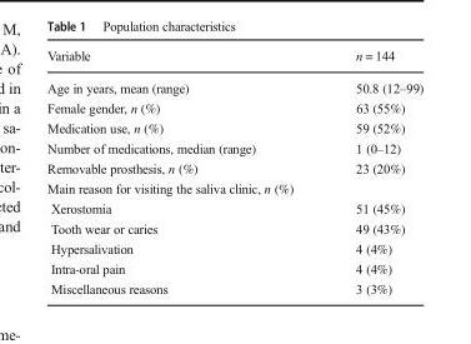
<table><thead><tr><td>Variable</td><td>n = 144</td></tr></thead><tbody><tr><td>Age in years, mean (range)</td><td>50.8 (12–99)</td></tr><tr><td>Female gender, n (%)</td><td>63 (55%)</td></tr><tr><td>Medication use, n (%)</td><td>59 (52%)</td></tr><tr><td>Number of medications, median (range)</td><td>1 (0–12)</td></tr><tr><td>Removable prosthesis, n (%)</td><td>23 (20%)</td></tr><tr><td colspan="2">Main reason for visiting the saliva clinic, n (%)</td></tr><tr><td>Xerostomia</td><td>51 (45%)</td></tr><tr><td>Tooth wear or caries</td><td>49 (43%)</td></tr><tr><td>Hypersalivation</td><td>4 (4%)</td></tr><tr><td>Intra-oral pain</td><td>4 (4%)</td></tr><tr><td>Miscellaneous reasons</td><td>3 (3%)</td></tr></tbody></table>